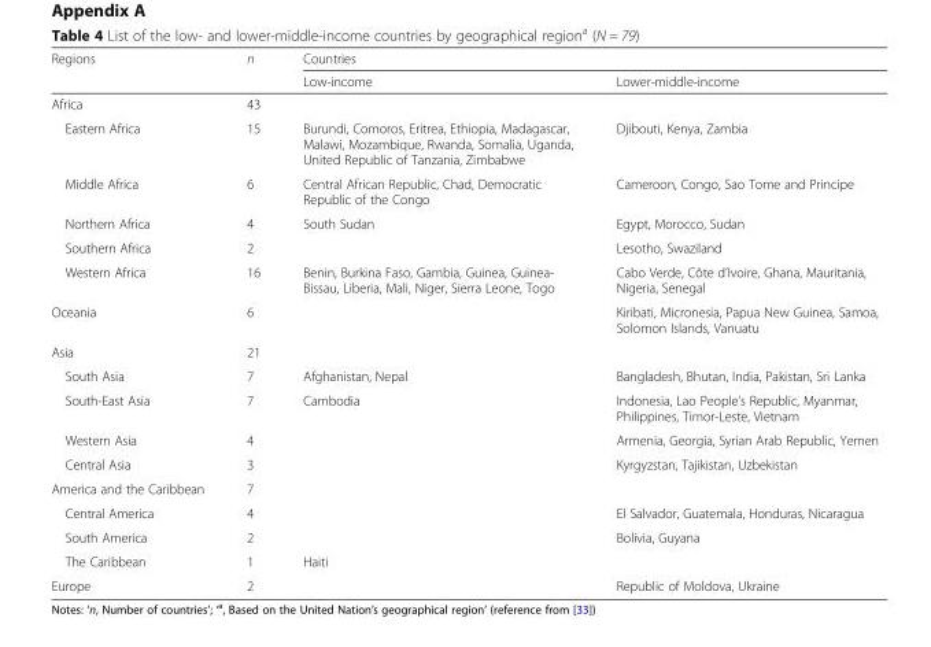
<table><thead><tr><td rowspan="2">Regions</td><td rowspan="2">n</td><td colspan="2">Countries</td></tr><tr><td>Low-income</td><td>Lower-middle-income</td></tr></thead><tbody><tr><td>Africa</td><td>43</td><td colspan="2"></td></tr><tr><td>Eastern Africa</td><td>15</td><td>Burundi, Comoros, Eritrea, Ethiopia, Madagascar, Malawi, Mozambique, Rwanda, Somalia, Uganda, United Republic of Tanzania, Zimbabwe</td><td>Djibouti, Kenya, Zambia</td></tr><tr><td>Middle Africa</td><td>6</td><td>Central African Republic, Chad, Democratic Republic of the Congo</td><td>Cameroon, Congo, Sao Tome and Principe</td></tr><tr><td>Northern Africa</td><td>4</td><td>South Sudan</td><td>Egypt, Morocco, Sudan</td></tr><tr><td>Southern Africa</td><td>2</td><td></td><td>Lesotho, Swaziland</td></tr><tr><td>Western Africa</td><td>16</td><td>Benin, Burkina Faso, Gambia, Guinea, Guinea- Bissau, Liberia, Mali, Niger, Sierra Leone, Togo</td><td>Cabo Verde, Côte d’Ivoire, Ghana, Mauritania, Nigeria, Senegal</td></tr><tr><td>Oceania</td><td>6</td><td></td><td>Kiribati, Micronesia, Papua New Guinea, Samoa, Solomon Islands, Vanuatu</td></tr><tr><td>Asia</td><td>21</td><td colspan="2"></td></tr><tr><td>South Asia</td><td>7</td><td>Afghanistan, Nepal</td><td>Bangladesh, Bhutan, India, Pakistan, Sri Lanka</td></tr><tr><td>South-East Asia</td><td>7</td><td>Cambodia</td><td>Indonesia, Lao People’s Republic, Myanmar, Philippines, Timor-Leste, Vietnam</td></tr><tr><td>Western Asia</td><td>4</td><td></td><td>Armenia, Georgia, Syrian Arab Republic, Yemen</td></tr><tr><td>Central Asia</td><td>3</td><td></td><td>Kyrgyzstan, Tajikistan, Uzbekistan</td></tr><tr><td>America and the Caribbean</td><td>7</td><td colspan="2"></td></tr><tr><td>Central America</td><td>4</td><td></td><td>El Salvador, Guatemala, Honduras, Nicaragua</td></tr><tr><td>South America</td><td>2</td><td></td><td>Bolivia, Guyana</td></tr><tr><td>The Caribbean</td><td>1</td><td>Haiti</td><td></td></tr><tr><td>Europe</td><td>2</td><td></td><td>Republic of Moldova, Ukraine</td></tr></tbody></table>